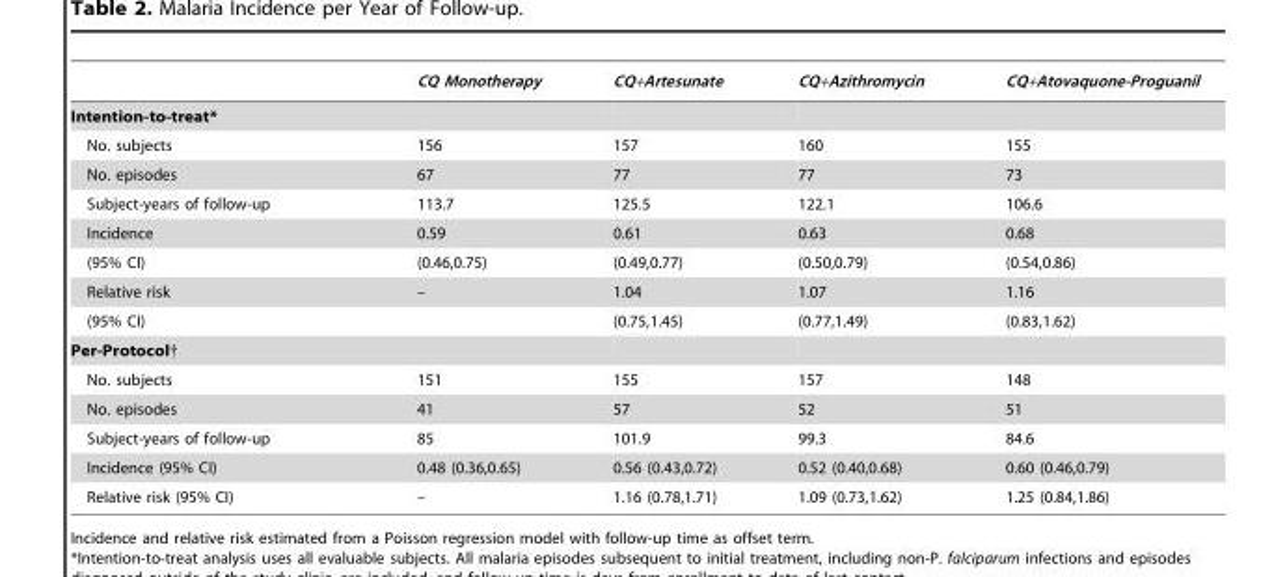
<table><thead><tr><td></td><td>CQ Monotherapy</td><td>CQ+Artesunate</td><td>CQ+Azithromycin</td><td>CQ+Atovaquone-Proguanil</td></tr></thead><tbody><tr><td colspan="5">Intention-to-treat*</td></tr><tr><td>No. subjects</td><td>156</td><td>157</td><td>160</td><td>155</td></tr><tr><td>No. episodes</td><td>67</td><td>77</td><td>77</td><td>73</td></tr><tr><td>Subject-years of follow-up</td><td>113.7</td><td>125.5</td><td>122.1</td><td>106.6</td></tr><tr><td>Incidence</td><td>0.59</td><td>0.61</td><td>0.63</td><td>0.68</td></tr><tr><td>(95% CI)</td><td>(0.46,0.75)</td><td>(0.49,0.77)</td><td>(0.50,0.79)</td><td>(0.54,0.86)</td></tr><tr><td>Relative risk</td><td>–</td><td>1.04</td><td>1.07</td><td>1.16</td></tr><tr><td>(95% CI)</td><td></td><td>(0.75,1.45)</td><td>(0.77,1.49)</td><td>(0.83,1.62)</td></tr><tr><td colspan="5">Per-Protocol†</td></tr><tr><td>No. subjects</td><td>151</td><td>155</td><td>157</td><td>148</td></tr><tr><td>No. episodes</td><td>41</td><td>57</td><td>52</td><td>51</td></tr><tr><td>Subject-years of follow-up</td><td>85</td><td>101.9</td><td>99.3</td><td>84.6</td></tr><tr><td>Incidence (95% CI)</td><td>0.48 (0.36,0.65)</td><td>0.56 (0.43,0.72)</td><td>0.52 (0.40,0.68)</td><td>0.60 (0.46,0.79)</td></tr><tr><td>Relative risk (95% CI)</td><td>–</td><td>1.16 (0.78,1.71)</td><td>1.09 (0.73,1.62)</td><td>1.25 (0.84,1.86)</td></tr></tbody></table>